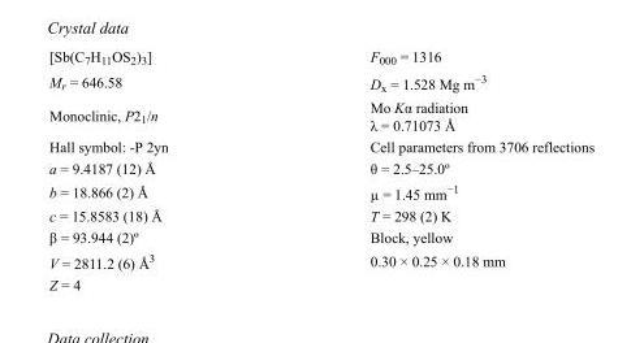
<table><tbody><tr><td>[Sb(C<sub>7</sub>H<sub>11</sub>OS<sub>2</sub>)<sub>3</sub>]</td><td>F000 = 1316</td></tr><tr><td>M<sub>r</sub> = 646.58</td><td>D<sub>x</sub> = 1.528 Mg m<sup>−3</sup></td></tr><tr><td>Monoclinic, P2<sub>1</sub>/n</td><td>Mo Kα radiation λ = 0.71073 Å</td></tr><tr><td>Hall symbol: -P 2yn</td><td>Cell parameters from 3706 reflections</td></tr><tr><td>a = 9.4187 (12) Å</td><td>θ = 2.5–25.0º</td></tr><tr><td>b = 18.866 (2) Å</td><td>µ = 1.45 mm<sup>−1</sup></td></tr><tr><td>c = 15.8583 (18) Å</td><td>T = 298 (2) K</td></tr><tr><td>β = 93.944 (2)º</td><td>Block, yellow</td></tr><tr><td>V = 2811.2 (6) Å<sup>3</sup></td><td>0.30 × 0.25 × 0.18 mm</td></tr><tr><td>Z = 4</td><td></td></tr></tbody></table>